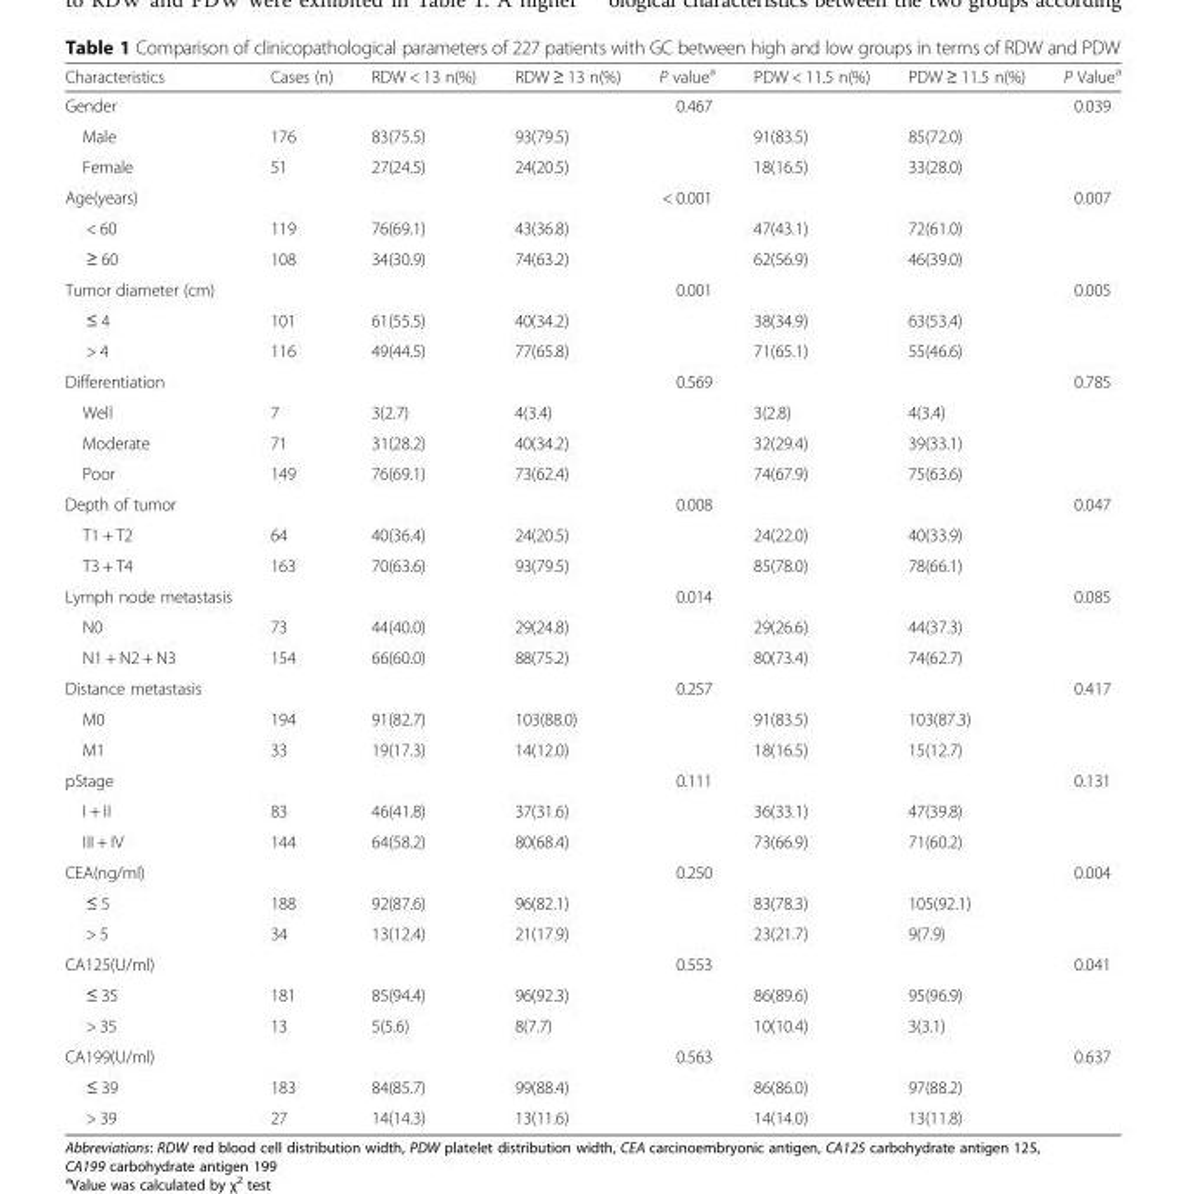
<table><thead><tr><td>Characteristics</td><td>Cases (n)</td><td>RDW &lt; 13 n(%)</td><td>RDW ≥ 13 n(%)</td><td>P value<sup>a</sup></td><td>PDW &lt; 11.5 n(%)</td><td>PDW ≥ 11.5 n(%)</td><td>P Value<sup>a</sup></td></tr></thead><tbody><tr><td>Gender</td><td></td><td></td><td></td><td>0.467</td><td></td><td></td><td>0.039</td></tr><tr><td>Male</td><td>176</td><td>83(75.5)</td><td>93(79.5)</td><td></td><td>91(83.5)</td><td>85(72.0)</td><td></td></tr><tr><td>Female</td><td>51</td><td>27(24.5)</td><td>24(20.5)</td><td></td><td>18(16.5)</td><td>33(28.0)</td><td></td></tr><tr><td>Age(years)</td><td></td><td></td><td></td><td>&lt; 0.001</td><td></td><td></td><td>0.007</td></tr><tr><td>&lt; 60</td><td>119</td><td>76(69.1)</td><td>43(36.8)</td><td></td><td>47(43.1)</td><td>72(61.0)</td><td></td></tr><tr><td>≥ 60</td><td>108</td><td>34(30.9)</td><td>74(63.2)</td><td></td><td>62(56.9)</td><td>46(39.0)</td><td></td></tr><tr><td>Tumor diameter (cm)</td><td></td><td></td><td></td><td>0.001</td><td></td><td></td><td>0.005</td></tr><tr><td>≤ 4</td><td>101</td><td>61(55.5)</td><td>40(34.2)</td><td></td><td>38(34.9)</td><td>63(53.4)</td><td></td></tr><tr><td>&gt; 4</td><td>116</td><td>49(44.5)</td><td>77(65.8)</td><td></td><td>71(65.1)</td><td>55(46.6)</td><td></td></tr><tr><td>Differentiation</td><td></td><td></td><td></td><td>0.569</td><td></td><td></td><td>0.785</td></tr><tr><td>Well</td><td>7</td><td>3(2.7)</td><td>4(3.4)</td><td></td><td>3(2.8)</td><td>4(3.4)</td><td></td></tr><tr><td>Moderate</td><td>71</td><td>31(28.2)</td><td>40(34.2)</td><td></td><td>32(29.4)</td><td>39(33.1)</td><td></td></tr><tr><td>Poor</td><td>149</td><td>76(69.1)</td><td>73(62.4)</td><td></td><td>74(67.9)</td><td>75(63.6)</td><td></td></tr><tr><td>Depth of tumor</td><td></td><td></td><td></td><td>0.008</td><td></td><td></td><td>0.047</td></tr><tr><td>T1 + T2</td><td>64</td><td>40(36.4)</td><td>24(20.5)</td><td></td><td>24(22.0)</td><td>40(33.9)</td><td></td></tr><tr><td>T3 + T4</td><td>163</td><td>70(63.6)</td><td>93(79.5)</td><td></td><td>85(78.0)</td><td>78(66.1)</td><td></td></tr><tr><td>Lymph node metastasis</td><td></td><td></td><td></td><td>0.014</td><td></td><td></td><td>0.085</td></tr><tr><td>N0</td><td>73</td><td>44(40.0)</td><td>29(24.8)</td><td></td><td>29(26.6)</td><td>44(37.3)</td><td></td></tr><tr><td>N1 + N2 + N3</td><td>154</td><td>66(60.0)</td><td>88(75.2)</td><td></td><td>80(73.4)</td><td>74(62.7)</td><td></td></tr><tr><td>Distance metastasis</td><td></td><td></td><td></td><td>0.257</td><td></td><td></td><td>0.417</td></tr><tr><td>M0</td><td>194</td><td>91(82.7)</td><td>103(88.0)</td><td></td><td>91(83.5)</td><td>103(87.3)</td><td></td></tr><tr><td>M1</td><td>33</td><td>19(17.3)</td><td>14(12.0)</td><td></td><td>18(16.5)</td><td>15(12.7)</td><td></td></tr><tr><td>pStage</td><td></td><td></td><td></td><td>0.111</td><td></td><td></td><td>0.131</td></tr><tr><td>I + II</td><td>83</td><td>46(41.8)</td><td>37(31.6)</td><td></td><td>36(33.1)</td><td>47(39.8)</td><td></td></tr><tr><td>III + IV</td><td>144</td><td>64(58.2)</td><td>80(68.4)</td><td></td><td>73(66.9)</td><td>71(60.2)</td><td></td></tr><tr><td>CEA(ng/ml)</td><td></td><td></td><td></td><td>0.250</td><td></td><td></td><td>0.004</td></tr><tr><td>≤ 5</td><td>188</td><td>92(87.6)</td><td>96(82.1)</td><td></td><td>83(78.3)</td><td>105(92.1)</td><td></td></tr><tr><td>&gt; 5</td><td>34</td><td>13(12.4)</td><td>21(17.9)</td><td></td><td>23(21.7)</td><td>9(7.9)</td><td></td></tr><tr><td>CA125(U/ml)</td><td></td><td></td><td></td><td>0.553</td><td></td><td></td><td>0.041</td></tr><tr><td>≤ 35</td><td>181</td><td>85(94.4)</td><td>96(92.3)</td><td></td><td>86(89.6)</td><td>95(96.9)</td><td></td></tr><tr><td>&gt; 35</td><td>13</td><td>5(5.6)</td><td>8(7.7)</td><td></td><td>10(10.4)</td><td>3(3.1)</td><td></td></tr><tr><td>CA199(U/ml)</td><td></td><td></td><td></td><td>0.563</td><td></td><td></td><td>0.637</td></tr><tr><td>≤ 39</td><td>183</td><td>84(85.7)</td><td>99(88.4)</td><td></td><td>86(86.0)</td><td>97(88.2)</td><td></td></tr><tr><td>&gt; 39</td><td>27</td><td>14(14.3)</td><td>13(11.6)</td><td></td><td>14(14.0)</td><td>13(11.8)</td><td></td></tr></tbody></table>